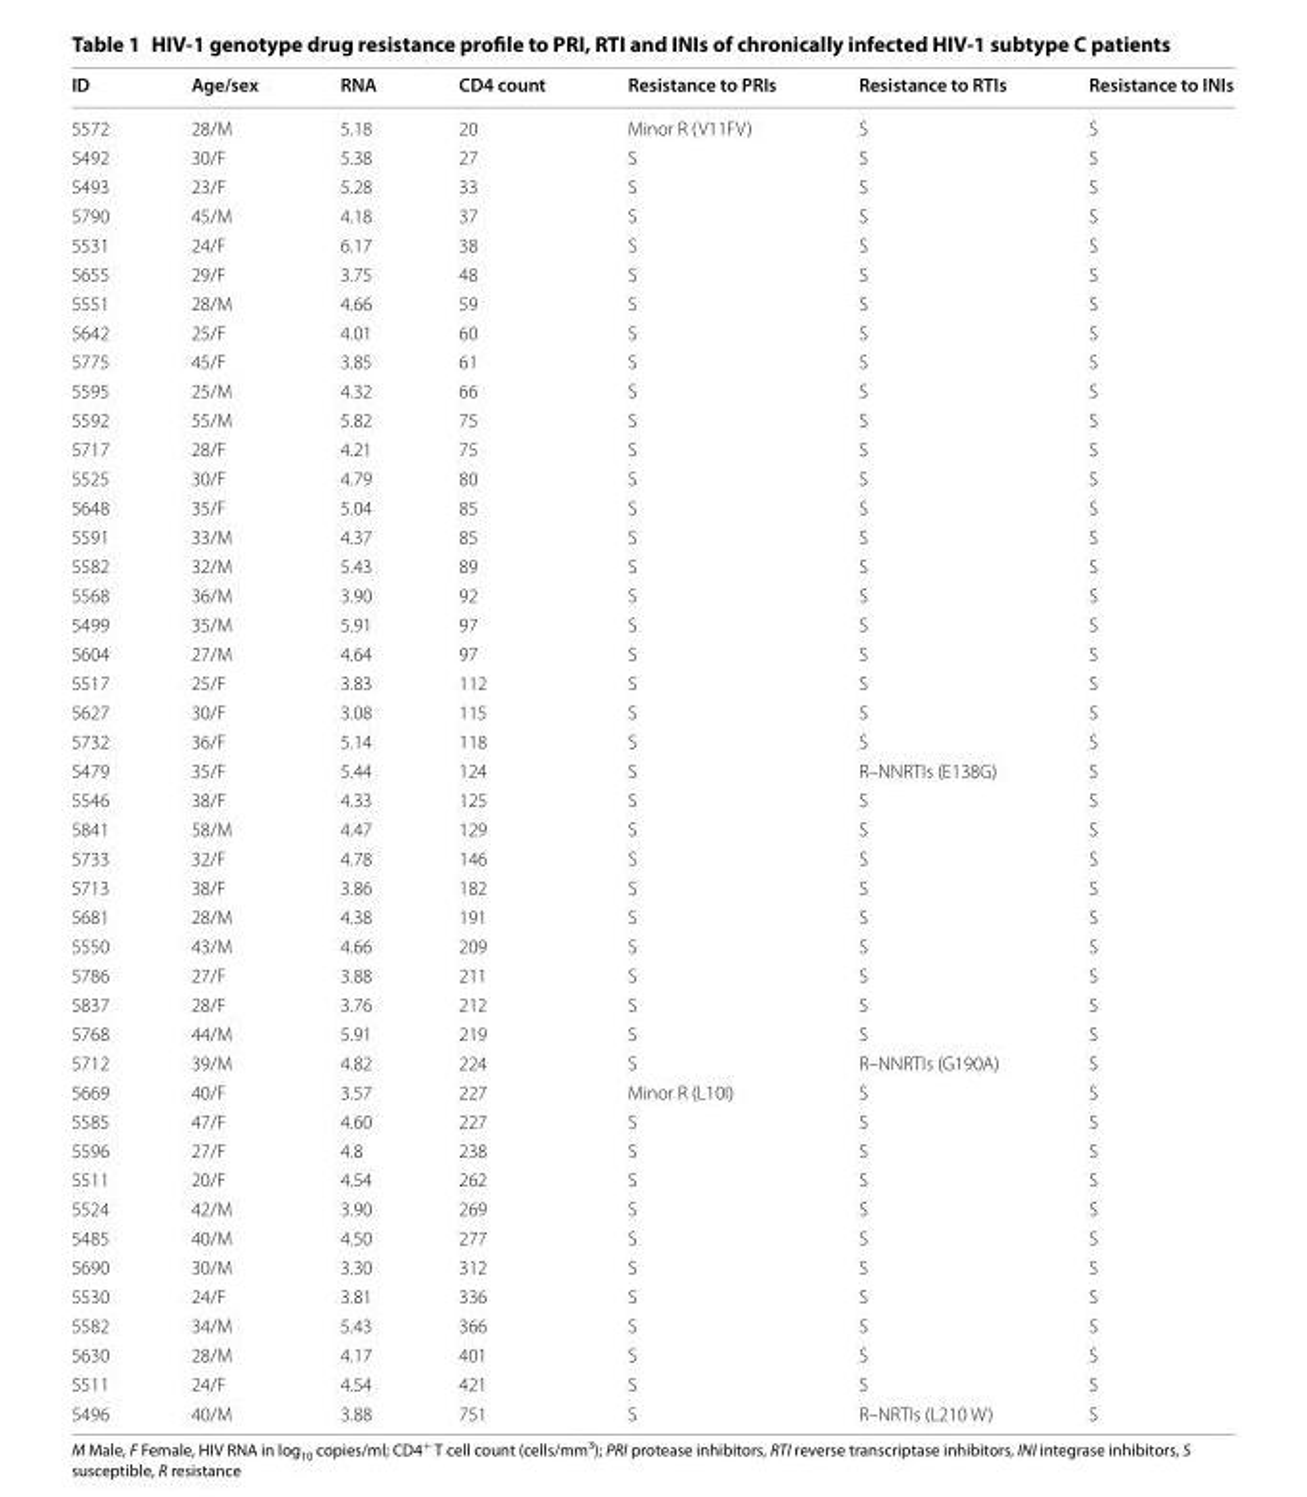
<table><thead><tr><td>ID</td><td>Age/sex</td><td>RNA</td><td>CD4 count</td><td>Resistance to PRIs</td><td>Resistance to RTIs</td><td>Resistance to INIs</td></tr></thead><tbody><tr><td>5572</td><td>28/M</td><td>5.18</td><td>20</td><td>Minor R (V11FV)</td><td>S</td><td>S</td></tr><tr><td>5492</td><td>30/F</td><td>5.38</td><td>27</td><td>S</td><td>S</td><td>S</td></tr><tr><td>5493</td><td>23/F</td><td>5.28</td><td>33</td><td>S</td><td>S</td><td>S</td></tr><tr><td>5790</td><td>45/M</td><td>4.18</td><td>37</td><td>S</td><td>S</td><td>S</td></tr><tr><td>5531</td><td>24/F</td><td>6.17</td><td>38</td><td>S</td><td>S</td><td>S</td></tr><tr><td>5655</td><td>29/F</td><td>3.75</td><td>48</td><td>S</td><td>S</td><td>S</td></tr><tr><td>5551</td><td>28/M</td><td>4.66</td><td>59</td><td>S</td><td>S</td><td>S</td></tr><tr><td>5642</td><td>25/F</td><td>4.01</td><td>60</td><td>S</td><td>S</td><td>S</td></tr><tr><td>5775</td><td>45/F</td><td>3.85</td><td>61</td><td>S</td><td>S</td><td>S</td></tr><tr><td>5595</td><td>25/M</td><td>4.32</td><td>66</td><td>S</td><td>S</td><td>S</td></tr><tr><td>5592</td><td>55/M</td><td>5.82</td><td>75</td><td>S</td><td>S</td><td>S</td></tr><tr><td>5717</td><td>28/F</td><td>4.21</td><td>75</td><td>S</td><td>S</td><td>S</td></tr><tr><td>5525</td><td>30/F</td><td>4.79</td><td>80</td><td>S</td><td>S</td><td>S</td></tr><tr><td>5648</td><td>35/F</td><td>5.04</td><td>85</td><td>S</td><td>S</td><td>S</td></tr><tr><td>5591</td><td>33/M</td><td>4.37</td><td>85</td><td>S</td><td>S</td><td>S</td></tr><tr><td>5582</td><td>32/M</td><td>5.43</td><td>89</td><td>S</td><td>S</td><td>S</td></tr><tr><td>5568</td><td>36/M</td><td>3.90</td><td>92</td><td>S</td><td>S</td><td>S</td></tr><tr><td>5499</td><td>35/M</td><td>5.91</td><td>97</td><td>S</td><td>S</td><td>S</td></tr><tr><td>5604</td><td>27/M</td><td>4.64</td><td>97</td><td>S</td><td>S</td><td>S</td></tr><tr><td>5517</td><td>25/F</td><td>3.83</td><td>112</td><td>S</td><td>S</td><td>S</td></tr><tr><td>5627</td><td>30/F</td><td>3.08</td><td>115</td><td>S</td><td>S</td><td>S</td></tr><tr><td>5732</td><td>36/F</td><td>5.14</td><td>118</td><td>S</td><td>S</td><td>S</td></tr><tr><td>5479</td><td>35/F</td><td>5.44</td><td>124</td><td>S</td><td>R–NNRTIs (E138G)</td><td>S</td></tr><tr><td>5546</td><td>38/F</td><td>4.33</td><td>125</td><td>S</td><td>S</td><td>S</td></tr><tr><td>5841</td><td>58/M</td><td>4.47</td><td>129</td><td>S</td><td>S</td><td>S</td></tr><tr><td>5733</td><td>32/F</td><td>4.78</td><td>146</td><td>S</td><td>S</td><td>S</td></tr><tr><td>5713</td><td>38/F</td><td>3.86</td><td>182</td><td>S</td><td>S</td><td>S</td></tr><tr><td>5681</td><td>28/M</td><td>4.38</td><td>191</td><td>S</td><td>S</td><td>S</td></tr><tr><td>5550</td><td>43/M</td><td>4.66</td><td>209</td><td>S</td><td>S</td><td>S</td></tr><tr><td>5786</td><td>27/F</td><td>3.88</td><td>211</td><td>S</td><td>S</td><td>S</td></tr><tr><td>5837</td><td>28/F</td><td>3.76</td><td>212</td><td>S</td><td>S</td><td>S</td></tr><tr><td>5768</td><td>44/M</td><td>5.91</td><td>219</td><td>S</td><td>S</td><td>S</td></tr><tr><td>5712</td><td>39/M</td><td>4.82</td><td>224</td><td>S</td><td>R–NNRTIs (G190A)</td><td>S</td></tr><tr><td>5669</td><td>40/F</td><td>3.57</td><td>227</td><td>Minor R (L10I)</td><td>S</td><td>S</td></tr><tr><td>5585</td><td>47/F</td><td>4.60</td><td>227</td><td>S</td><td>S</td><td>S</td></tr><tr><td>5596</td><td>27/F</td><td>4.8</td><td>238</td><td>S</td><td>S</td><td>S</td></tr><tr><td>5511</td><td>20/F</td><td>4.54</td><td>262</td><td>S</td><td>S</td><td>S</td></tr><tr><td>5524</td><td>42/M</td><td>3.90</td><td>269</td><td>S</td><td>S</td><td>S</td></tr><tr><td>5485</td><td>40/M</td><td>4.50</td><td>277</td><td>S</td><td>S</td><td>S</td></tr><tr><td>5690</td><td>30/M</td><td>3.30</td><td>312</td><td>S</td><td>S</td><td>S</td></tr><tr><td>5530</td><td>24/F</td><td>3.81</td><td>336</td><td>S</td><td>S</td><td>S</td></tr><tr><td>5582</td><td>34/M</td><td>5.43</td><td>366</td><td>S</td><td>S</td><td>S</td></tr><tr><td>5630</td><td>28/M</td><td>4.17</td><td>401</td><td>S</td><td>S</td><td>S</td></tr><tr><td>5511</td><td>24/F</td><td>4.54</td><td>421</td><td>S</td><td>S</td><td>S</td></tr><tr><td>5496</td><td>40/M</td><td>3.88</td><td>751</td><td>S</td><td>R–NRTIs (L210 W)</td><td>S</td></tr></tbody></table>